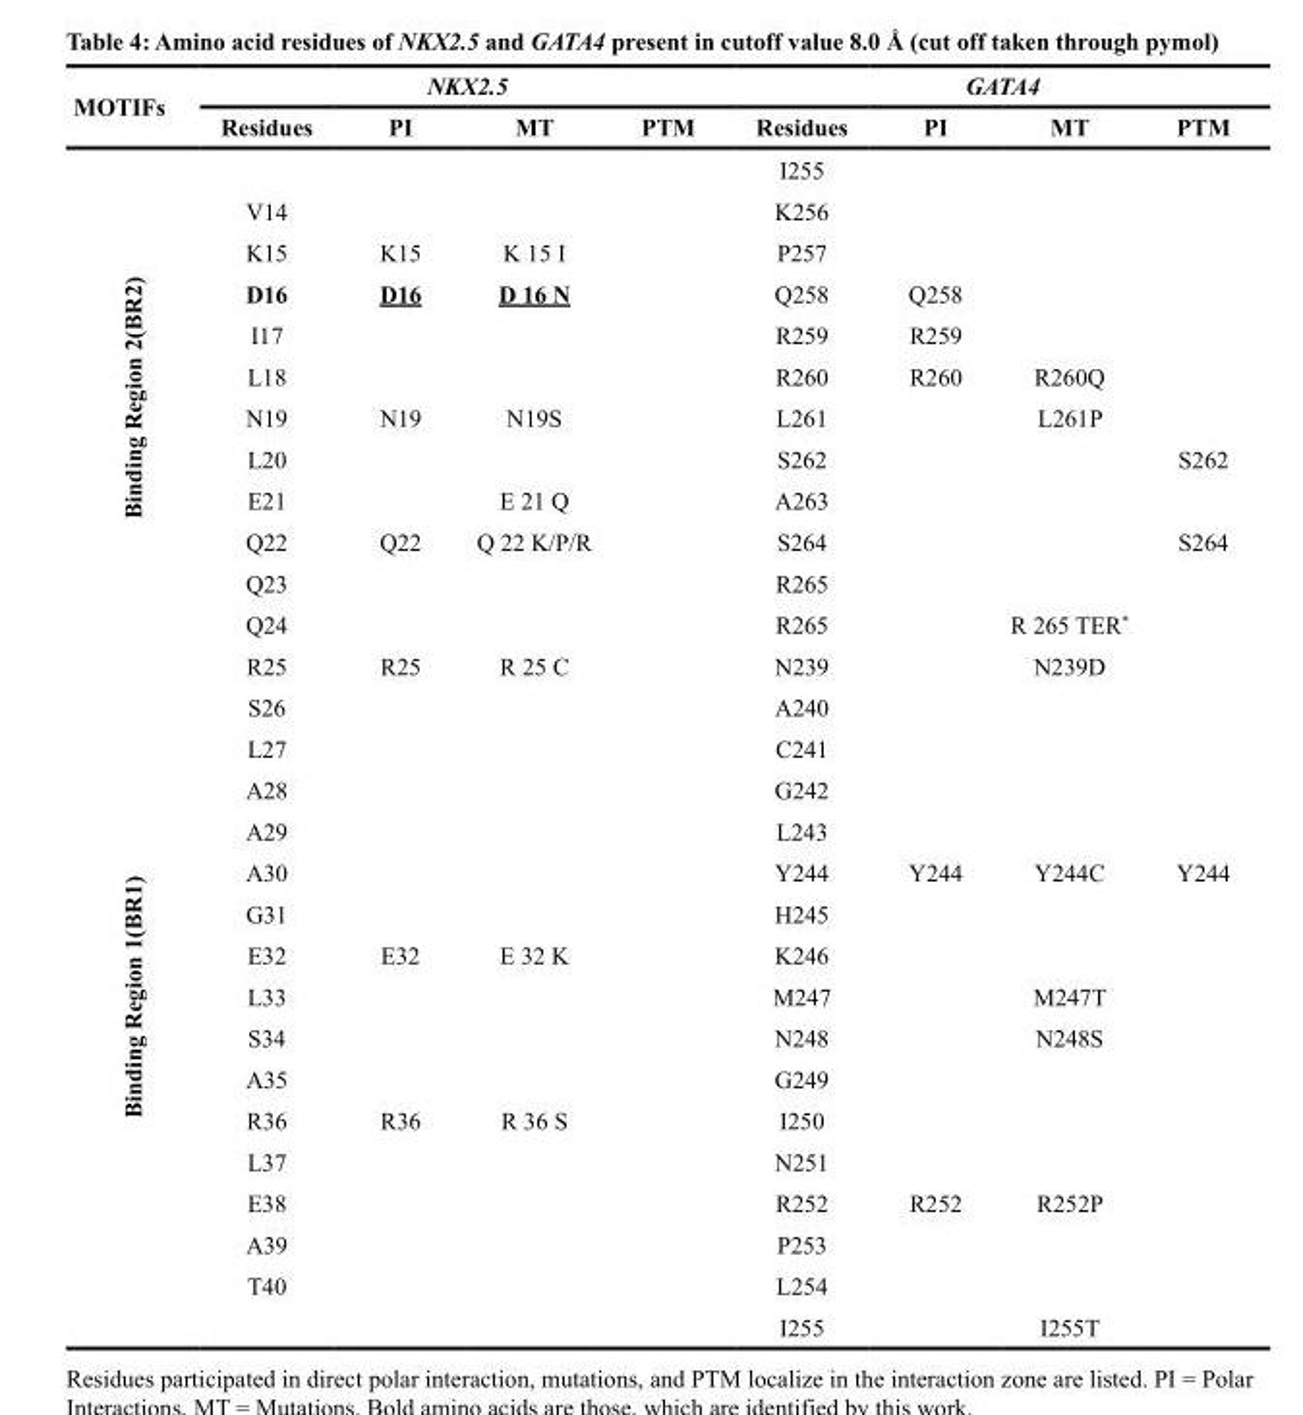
<table><thead><tr><td rowspan="2">MOTIFs</td><td colspan="4">NKX2.5</td><td colspan="4">GATA4</td></tr><tr><td>Residues</td><td>PI</td><td>MT</td><td>PTM</td><td>Residues</td><td>PI</td><td>MT</td><td>PTM</td></tr></thead><tbody><tr><td rowspan="12">Binding Region 2(BR2)</td><td></td><td></td><td></td><td></td><td>I255</td><td></td><td></td><td></td></tr><tr><td>V14</td><td></td><td></td><td></td><td>K256</td><td></td><td></td><td></td></tr><tr><td>K15</td><td>K15</td><td>K 15 I</td><td></td><td>P257</td><td></td><td></td><td></td></tr><tr><td>D16</td><td>D16</td><td>D 16 N</td><td></td><td>Q258</td><td>Q258</td><td></td><td></td></tr><tr><td>I17</td><td></td><td></td><td></td><td>R259</td><td>R259</td><td></td><td></td></tr><tr><td>L18</td><td></td><td></td><td></td><td>R260</td><td>R260</td><td>R260Q</td><td></td></tr><tr><td>N19</td><td>N19</td><td>N19S</td><td></td><td>L261</td><td></td><td>L261P</td><td></td></tr><tr><td>L20</td><td></td><td></td><td></td><td>S262</td><td></td><td></td><td>S262</td></tr><tr><td>E21</td><td></td><td>E 21 Q</td><td></td><td>A263</td><td></td><td></td><td></td></tr><tr><td>Q22</td><td>Q22</td><td>Q 22 K/P/R</td><td></td><td>S264</td><td></td><td></td><td>S264</td></tr><tr><td>Q23</td><td></td><td></td><td></td><td>R265</td><td></td><td></td><td></td></tr><tr><td>Q24</td><td></td><td></td><td></td><td>R265</td><td></td><td>R 265 TER*</td><td></td></tr><tr><td rowspan="17">Binding Region 1(BR1)</td><td>R25</td><td>R25</td><td>R 25 C</td><td></td><td>N239</td><td></td><td>N239D</td><td></td></tr><tr><td>S26</td><td></td><td></td><td></td><td>A240</td><td></td><td></td><td></td></tr><tr><td>L27</td><td></td><td></td><td></td><td>C241</td><td></td><td></td><td></td></tr><tr><td>A28</td><td></td><td></td><td></td><td>G242</td><td></td><td></td><td></td></tr><tr><td>A29</td><td></td><td></td><td></td><td>L243</td><td></td><td></td><td></td></tr><tr><td>A30</td><td></td><td></td><td></td><td>Y244</td><td>Y244</td><td>Y244C</td><td>Y244</td></tr><tr><td>G31</td><td></td><td></td><td></td><td>H245</td><td></td><td></td><td></td></tr><tr><td>E32</td><td>E32</td><td>E 32 K</td><td></td><td>K246</td><td></td><td></td><td></td></tr><tr><td>L33</td><td></td><td></td><td></td><td>M247</td><td></td><td>M247T</td><td></td></tr><tr><td>S34</td><td></td><td></td><td></td><td>N248</td><td></td><td>N248S</td><td></td></tr><tr><td>A35</td><td></td><td></td><td></td><td>G249</td><td></td><td></td><td></td></tr><tr><td>R36</td><td>R36</td><td>R 36 S</td><td></td><td>I250</td><td></td><td></td><td></td></tr><tr><td>L37</td><td></td><td></td><td></td><td>N251</td><td></td><td></td><td></td></tr><tr><td>E38</td><td></td><td></td><td></td><td>R252</td><td>R252</td><td>R252P</td><td></td></tr><tr><td>A39</td><td></td><td></td><td></td><td>P253</td><td></td><td></td><td></td></tr><tr><td>T40</td><td></td><td></td><td></td><td>L254</td><td></td><td></td><td></td></tr><tr><td></td><td></td><td></td><td></td><td>I255</td><td></td><td>I255T</td><td></td></tr></tbody></table>